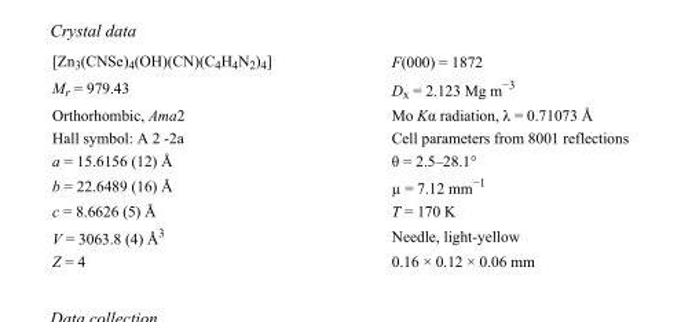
<table><tbody><tr><td>[Zn<sub>3</sub>(CNSe)<sub>4</sub>(OH)(CN)(C<sub>4</sub>H<sub>4</sub>N<sub>2</sub>)<sub>4</sub>]</td><td>F(000) = 1872</td></tr><tr><td>M<sub>r</sub> = 979.43</td><td>D<sub>x</sub> = 2.123 Mg m<sup>−3</sup></td></tr><tr><td>Orthorhombic, Ama2</td><td>Mo Kα radiation, λ = 0.71073 Å</td></tr><tr><td>Hall symbol: A 2 -2a</td><td>Cell parameters from 8001 reflections</td></tr><tr><td>a = 15.6156 (12) Å</td><td>θ = 2.5–28.1°</td></tr><tr><td>b = 22.6489 (16) Å</td><td>µ = 7.12 mm<sup>−1</sup></td></tr><tr><td>c = 8.6626 (5) Å</td><td>T = 170 K</td></tr><tr><td>V = 3063.8 (4) Å<sup>3</sup></td><td>Needle, light-yellow</td></tr><tr><td>Z = 4</td><td>0.16 × 0.12 × 0.06 mm</td></tr></tbody></table>